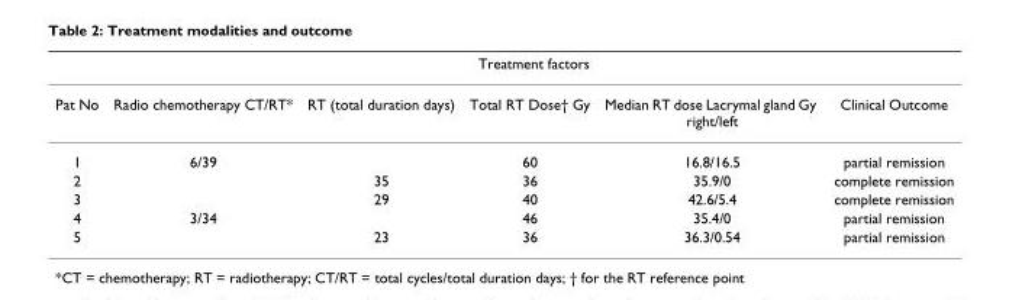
<table><thead><tr><td rowspan="2">Pat No</td><td colspan="5">Treatment factors</td></tr><tr><td>Radio chemotherapy CT/RT*</td><td>RT (total duration days)</td><td>Total RT Dose† Gy</td><td>Median RT dose Lacrymal gland Gy right/left</td><td>Clinical Outcome</td></tr></thead><tbody><tr><td>1</td><td>6/39</td><td></td><td>60</td><td>16.8/16.5</td><td>partial remission</td></tr><tr><td>2</td><td></td><td>35</td><td>36</td><td>35.9/0</td><td>complete remission</td></tr><tr><td>3</td><td></td><td>29</td><td>40</td><td>42.6/5.4</td><td>complete remission</td></tr><tr><td>4</td><td>3/34</td><td></td><td>46</td><td>35.4/0</td><td>partial remission</td></tr><tr><td>5</td><td></td><td>23</td><td>36</td><td>36.3/0.54</td><td>partial remission</td></tr></tbody></table>